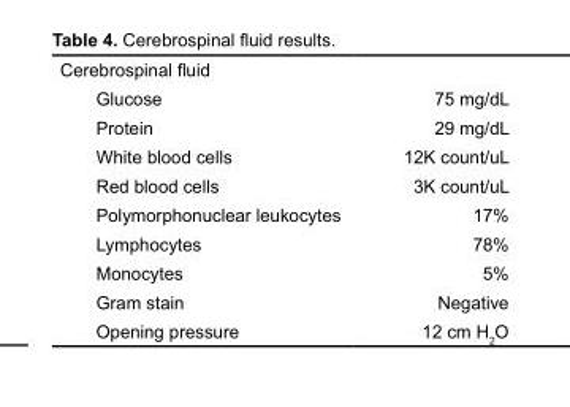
<table><tbody><tr><td colspan="2">Cerebrospinal fluid</td></tr><tr><td>Glucose</td><td>75 mg/dL</td></tr><tr><td>Protein</td><td>29 mg/dL</td></tr><tr><td>White blood cells</td><td>12K count/uL</td></tr><tr><td>Red blood cells</td><td>3K count/uL</td></tr><tr><td>Polymorphonuclear leukocytes</td><td>17%</td></tr><tr><td>Lymphocytes</td><td>78%</td></tr><tr><td>Monocytes</td><td>5%</td></tr><tr><td>Gram stain</td><td>Negative</td></tr><tr><td>Opening pressure</td><td>12 cm H<sub>2</sub>O</td></tr></tbody></table>